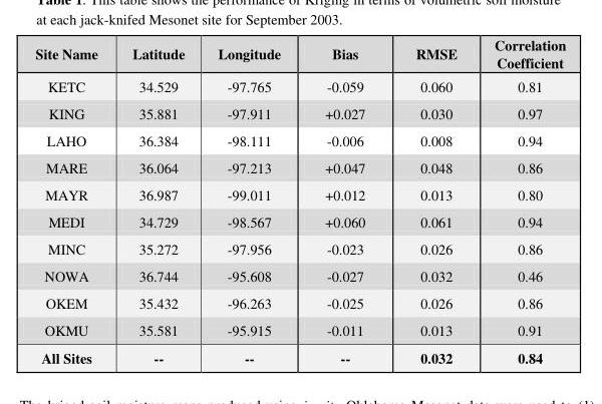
<table><thead><tr><td>Site Name</td><td>Latitude</td><td>Longitude</td><td>Bias</td><td>RMSE</td><td>Correlation Coefficient</td></tr></thead><tbody><tr><td>KETC</td><td>34.529</td><td>-97.765</td><td>-0.059</td><td>0.060</td><td>0.81</td></tr><tr><td>KING</td><td>35.881</td><td>-97.911</td><td>+0.027</td><td>0.030</td><td>0.97</td></tr><tr><td>LAHO</td><td>36.384</td><td>-98.111</td><td>-0.006</td><td>0.008</td><td>0.94</td></tr><tr><td>MARE</td><td>36.064</td><td>-97.213</td><td>+0.047</td><td>0.048</td><td>0.86</td></tr><tr><td>MAYR</td><td>36.987</td><td>-99.011</td><td>+0.012</td><td>0.013</td><td>0.80</td></tr><tr><td>MEDI</td><td>34.729</td><td>-98.567</td><td>+0.060</td><td>0.061</td><td>0.94</td></tr><tr><td>MINC</td><td>35.272</td><td>-97.956</td><td>-0.023</td><td>0.026</td><td>0.86</td></tr><tr><td>NOWA</td><td>36.744</td><td>-95.608</td><td>-0.027</td><td>0.032</td><td>0.46</td></tr><tr><td>OKEM</td><td>35.432</td><td>-96.263</td><td>-0.025</td><td>0.026</td><td>0.86</td></tr><tr><td>OKMU</td><td>35.581</td><td>-95.915</td><td>-0.011</td><td>0.013</td><td>0.91</td></tr><tr><td>All Sites</td><td>--</td><td>--</td><td>--</td><td>0.032</td><td>0.84</td></tr></tbody></table>